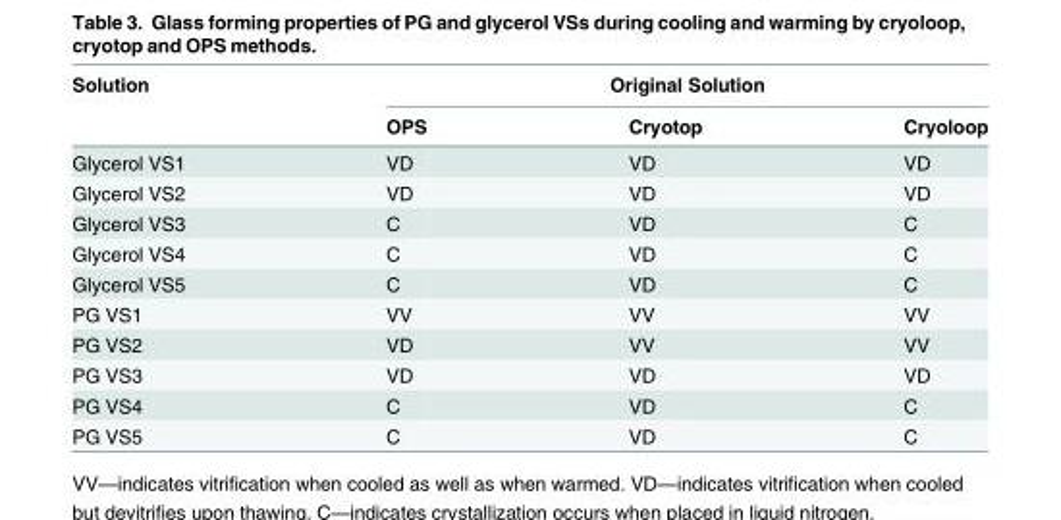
<table><thead><tr><td rowspan="2">Solution</td><td colspan="3">Original Solution</td></tr><tr><td>OPS</td><td>Cryotop</td><td>Cryoloop</td></tr></thead><tbody><tr><td>Glycerol VS1</td><td>VD</td><td>VD</td><td>VD</td></tr><tr><td>Glycerol VS2</td><td>VD</td><td>VD</td><td>VD</td></tr><tr><td>Glycerol VS3</td><td>C</td><td>VD</td><td>C</td></tr><tr><td>Glycerol VS4</td><td>C</td><td>VD</td><td>C</td></tr><tr><td>Glycerol VS5</td><td>C</td><td>VD</td><td>C</td></tr><tr><td>PG VS1</td><td>VV</td><td>VV</td><td>VV</td></tr><tr><td>PG VS2</td><td>VD</td><td>VV</td><td>VV</td></tr><tr><td>PG VS3</td><td>VD</td><td>VD</td><td>VD</td></tr><tr><td>PG VS4</td><td>C</td><td>VD</td><td>C</td></tr><tr><td>PG VS5</td><td>C</td><td>VD</td><td>C</td></tr></tbody></table>